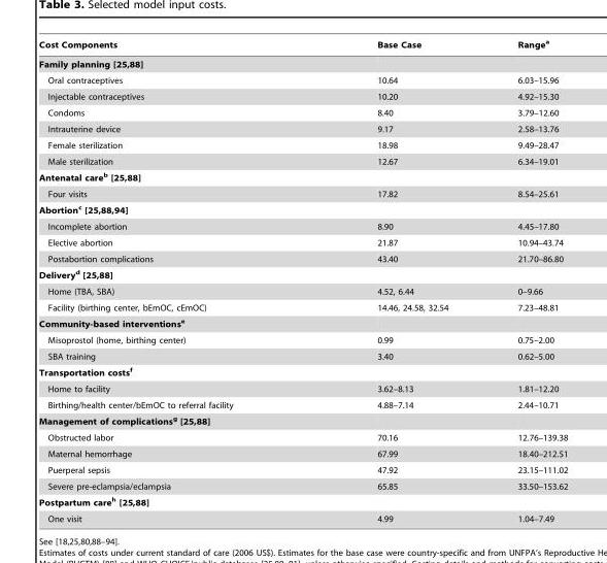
<table><thead><tr><td>Cost Components</td><td>Base Case</td><td>Range<sup>a</sup></td></tr></thead><tbody><tr><td colspan="3">Family planning [25,88]</td></tr><tr><td>Oral contraceptives</td><td>10.64</td><td>6.03–15.96</td></tr><tr><td>Injectable contraceptives</td><td>10.20</td><td>4.92–15.30</td></tr><tr><td>Condoms</td><td>8.40</td><td>3.79–12.60</td></tr><tr><td>Intrauterine device</td><td>9.17</td><td>2.58–13.76</td></tr><tr><td>Female sterilization</td><td>18.98</td><td>9.49–28.47</td></tr><tr><td>Male sterilization</td><td>12.67</td><td>6.34–19.01</td></tr><tr><td colspan="3">Antenatal careb [25,88]</td></tr><tr><td>Four visits</td><td>17.82</td><td>8.54–25.61</td></tr><tr><td colspan="3">Abortionc [25,88,94]</td></tr><tr><td>Incomplete abortion</td><td>8.90</td><td>4.45–17.80</td></tr><tr><td>Elective abortion</td><td>21.87</td><td>10.94–43.74</td></tr><tr><td>Postabortion complications</td><td>43.40</td><td>21.70–86.80</td></tr><tr><td colspan="3">Deliveryd [25,88]</td></tr><tr><td>Home (TBA, SBA)</td><td>4.52, 6.44</td><td>0–9.66</td></tr><tr><td>Facility (birthing center, bEmOC, cEmOC)</td><td>14.46, 24.58, 32.54</td><td>7.23–48.81</td></tr><tr><td colspan="3">Community-based interventionse</td></tr><tr><td>Misoprostol (home, birthing center)</td><td>0.99</td><td>0.75–2.00</td></tr><tr><td>SBA training</td><td>3.40</td><td>0.62–5.00</td></tr><tr><td colspan="3">Transportation costsf</td></tr><tr><td>Home to facility</td><td>3.62–8.13</td><td>1.81–12.20</td></tr><tr><td>Birthing/health center/bEmOC to referral facility</td><td>4.88–7.14</td><td>2.44–10.71</td></tr><tr><td colspan="3">Management of complicationsg [25,88]</td></tr><tr><td>Obstructed labor</td><td>70.16</td><td>12.76–139.38</td></tr><tr><td>Maternal hemorrhage</td><td>67.99</td><td>18.40–212.51</td></tr><tr><td>Puerperal sepsis</td><td>47.92</td><td>23.15–111.02</td></tr><tr><td>Severe pre-eclampsia/eclampsia</td><td>65.85</td><td>33.50–153.62</td></tr><tr><td colspan="3">Postpartum careh [25,88]</td></tr><tr><td>One visit</td><td>4.99</td><td>1.04–7.49</td></tr></tbody></table>